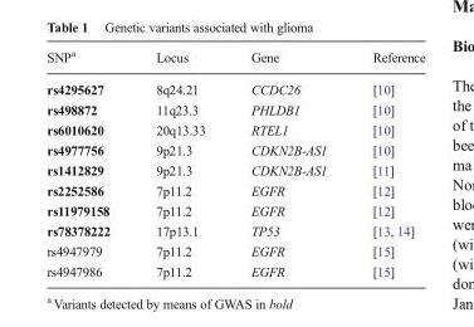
<table><thead><tr><td>SNP<sup>a</sup></td><td>Locus</td><td>Gene</td><td>Reference</td></tr></thead><tbody><tr><td>rs4295627</td><td>8q24.21</td><td>CCDC26</td><td>[10]</td></tr><tr><td>rs498872</td><td>11q23.3</td><td>PHLDB1</td><td>[10]</td></tr><tr><td>rs6010620</td><td>20q13.33</td><td>RTEL1</td><td>[10]</td></tr><tr><td>rs4977756</td><td>9p21.3</td><td>CDKN2B-AS1</td><td>[10]</td></tr><tr><td>rs1412829</td><td>9p21.3</td><td>CDKN2B-AS1</td><td>[11]</td></tr><tr><td>rs2252586</td><td>7p11.2</td><td>EGFR</td><td>[12]</td></tr><tr><td>rs11979158</td><td>7p11.2</td><td>EGFR</td><td>[12]</td></tr><tr><td>rs78378222</td><td>17p13.1</td><td>TP53</td><td>[13, 14]</td></tr><tr><td>rs4947979</td><td>7p11.2</td><td>EGFR</td><td>[15]</td></tr><tr><td>rs4947986</td><td>7p11.2</td><td>EGFR</td><td>[15]</td></tr></tbody></table>